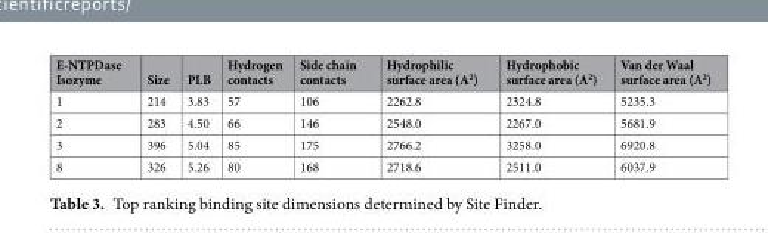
<table><thead><tr><td>E-NTPDase Isozyme</td><td>Size</td><td>PLB</td><td>Hydrogen contacts</td><td>Side chain contacts</td><td>Hydrophilic surface area (A<sup>2</sup>)</td><td>Hydrophobic surface area (A<sup>2</sup>)</td><td>Van der Waal surface area (A<sup>2</sup>)</td></tr></thead><tbody><tr><td>1</td><td>214</td><td>3.83</td><td>57</td><td>106</td><td>2262.8</td><td>2324.8</td><td>5235.3</td></tr><tr><td>2</td><td>283</td><td>4.50</td><td>66</td><td>146</td><td>2548.0</td><td>2267.0</td><td>5681.9</td></tr><tr><td>3</td><td>396</td><td>5.04</td><td>85</td><td>175</td><td>2766.2</td><td>3258.0</td><td>6920.8</td></tr><tr><td>8</td><td>326</td><td>5.26</td><td>80</td><td>168</td><td>2718.6</td><td>2511.0</td><td>6037.9</td></tr></tbody></table>